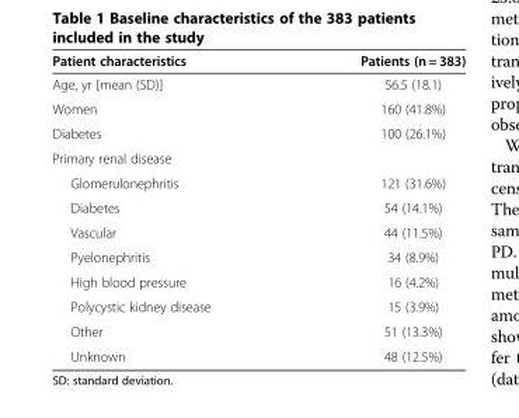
<table><thead><tr><td>Patient characteristics</td><td>Patients (n = 383)</td></tr></thead><tbody><tr><td>Age, yr [mean (SD)]</td><td>56.5 (18.1)</td></tr><tr><td>Women</td><td>160 (41.8%)</td></tr><tr><td>Diabetes</td><td>100 (26.1%)</td></tr><tr><td colspan="2">Primary renal disease</td></tr><tr><td>Glomerulonephritis</td><td>121 (31.6%)</td></tr><tr><td>Diabetes</td><td>54 (14.1%)</td></tr><tr><td>Vascular</td><td>44 (11.5%)</td></tr><tr><td>Pyelonephritis</td><td>34 (8.9%)</td></tr><tr><td>High blood pressure</td><td>16 (4.2%)</td></tr><tr><td>Polycystic kidney disease</td><td>15 (3.9%)</td></tr><tr><td>Other</td><td>51 (13.3%)</td></tr><tr><td>Unknown</td><td>48 (12.5%)</td></tr></tbody></table>